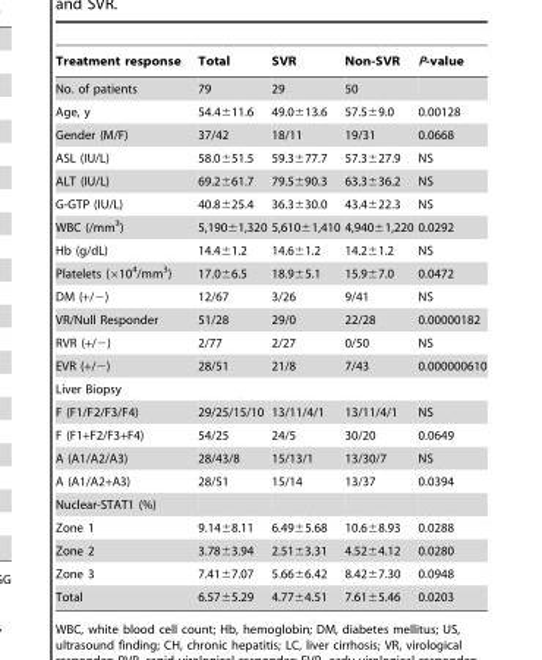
<table><thead><tr><td>Treatment response</td><td>Total</td><td>SVR</td><td>Non-SVR</td><td>P-value</td></tr></thead><tbody><tr><td>No. of patients</td><td>79</td><td>29</td><td>50</td><td></td></tr><tr><td>Age, y</td><td>54.4±11.6</td><td>49.0±13.6</td><td>57.5±9.0</td><td>0.00128</td></tr><tr><td>Gender (M/F)</td><td>37/42</td><td>18/11</td><td>19/31</td><td>0.0668</td></tr><tr><td>ASL (IU/L)</td><td>58.0±51.5</td><td>59.3±77.7</td><td>57.3±27.9</td><td>NS</td></tr><tr><td>ALT (IU/L)</td><td>69.2±61.7</td><td>79.5±90.3</td><td>63.3±36.2</td><td>NS</td></tr><tr><td>G-GTP (IU/L)</td><td>40.8±25.4</td><td>36.3±30.0</td><td>43.4±22.3</td><td>NS</td></tr><tr><td>WBC (/mm<sup>3</sup>)</td><td>5,190±1,320</td><td>5,610±1,410</td><td>4,940±1,220</td><td>0.0292</td></tr><tr><td>Hb (g/dL)</td><td>14.4±1.2</td><td>14.6±1.2</td><td>14.2±1.2</td><td>NS</td></tr><tr><td>Platelets (×10<sup>4</sup>/mm<sup>3</sup>)</td><td>17.0±6.5</td><td>18.9±5.1</td><td>15.9±7.0</td><td>0.0472</td></tr><tr><td>DM (+/−)</td><td>12/67</td><td>3/26</td><td>9/41</td><td>NS</td></tr><tr><td>VR/Null Responder</td><td>51/28</td><td>29/0</td><td>22/28</td><td>0.00000182</td></tr><tr><td>RVR (+/−)</td><td>2/77</td><td>2/27</td><td>0/50</td><td>NS</td></tr><tr><td>EVR (+/−)</td><td>28/51</td><td>21/8</td><td>7/43</td><td>0.000000610</td></tr><tr><td colspan="5">Liver Biopsy</td></tr><tr><td>F (F1/F2/F3/F4)</td><td>29/25/15/10</td><td>13/11/4/1</td><td>13/11/4/1</td><td>NS</td></tr><tr><td>F (F1+F2/F3+F4)</td><td>54/25</td><td>24/5</td><td>30/20</td><td>0.0649</td></tr><tr><td>A (A1/A2/A3)</td><td>28/43/8</td><td>15/13/1</td><td>13/30/7</td><td>NS</td></tr><tr><td>A (A1/A2+A3)</td><td>28/51</td><td>15/14</td><td>13/37</td><td>0.0394</td></tr><tr><td colspan="5">Nuclear-STAT1 (%)</td></tr><tr><td>Zone 1</td><td>9.14±8.11</td><td>6.49±5.68</td><td>10.6±8.93</td><td>0.0288</td></tr><tr><td>Zone 2</td><td>3.78±3.94</td><td>2.51±3.31</td><td>4.52±4.12</td><td>0.0280</td></tr><tr><td>Zone 3</td><td>7.41±7.07</td><td>5.66±6.42</td><td>8.42±7.30</td><td>0.0948</td></tr><tr><td>Total</td><td>6.57±5.29</td><td>4.77±4.51</td><td>7.61±5.46</td><td>0.0203</td></tr></tbody></table>